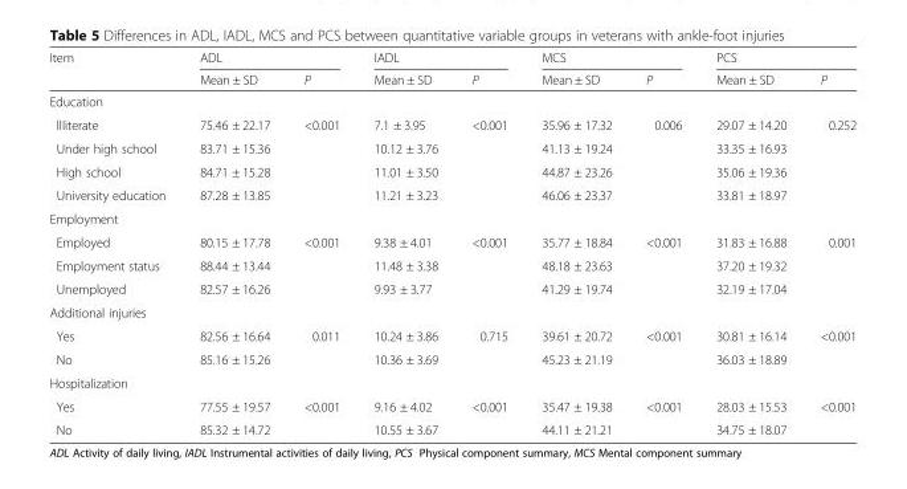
<table><thead><tr><td rowspan="2">Item</td><td colspan="2">ADL</td><td colspan="2">IADL</td><td colspan="2">MCS</td><td colspan="2">PCS</td></tr><tr><td>Mean ± SD</td><td>P</td><td>Mean ± SD</td><td>P</td><td>Mean ± SD</td><td>P</td><td>Mean ± SD</td><td>P</td></tr></thead><tbody><tr><td colspan="9">Education</td></tr><tr><td>Illiterate</td><td>75.46 ± 22.17</td><td rowspan="4">&lt;0.001</td><td>7.1 ± 3.95</td><td rowspan="4">&lt;0.001</td><td>35.96 ± 17.32</td><td rowspan="4">0.006</td><td>29.07 ± 14.20</td><td rowspan="4">0.252</td></tr><tr><td>Under high school</td><td>83.71 ± 15.36</td><td>10.12 ± 3.76</td><td>41.13 ± 19.24</td><td>33.35 ± 16.93</td></tr><tr><td>High school</td><td>84.71 ± 15.28</td><td>11.01 ± 3.50</td><td>44.87 ± 23.26</td><td>35.06 ± 19.36</td></tr><tr><td>University education</td><td>87.28 ± 13.85</td><td>11.21 ± 3.23</td><td>46.06 ± 23.37</td><td>33.81 ± 18.97</td></tr><tr><td colspan="9">Employment</td></tr><tr><td>Employed</td><td>80.15 ± 17.78</td><td rowspan="3">&lt;0.001</td><td>9.38 ± 4.01</td><td rowspan="3">&lt;0.001</td><td>35.77 ± 18.84</td><td rowspan="3">&lt;0.001</td><td>31.83 ± 16.88</td><td rowspan="3">0.001</td></tr><tr><td>Employment status</td><td>88.44 ± 13.44</td><td>11.48 ± 3.38</td><td>48.18 ± 23.63</td><td>37.20 ± 19.32</td></tr><tr><td>Unemployed</td><td>82.57 ± 16.26</td><td>9.93 ± 3.77</td><td>41.29 ± 19.74</td><td>32.19 ± 17.04</td></tr><tr><td colspan="9">Additional injuries</td></tr><tr><td>Yes</td><td>82.56 ± 16.64</td><td rowspan="2">0.011</td><td>10.24 ± 3.86</td><td rowspan="2">0.715</td><td>39.61 ± 20.72</td><td rowspan="2">&lt;0.001</td><td>30.81 ± 16.14</td><td rowspan="2">&lt;0.001</td></tr><tr><td>No</td><td>85.16 ± 15.26</td><td>10.36 ± 3.69</td><td>45.23 ± 21.19</td><td>36.03 ± 18.89</td></tr><tr><td colspan="9">Hospitalization</td></tr><tr><td>Yes</td><td>77.55 ± 19.57</td><td rowspan="2">&lt;0.001</td><td>9.16 ± 4.02</td><td rowspan="2">&lt;0.001</td><td>35.47 ± 19.38</td><td rowspan="2">&lt;0.001</td><td>28.03 ± 15.53</td><td rowspan="2">&lt;0.001</td></tr><tr><td>No</td><td>85.32 ± 14.72</td><td>10.55 ± 3.67</td><td>44.11 ± 21.21</td><td>34.75 ± 18.07</td></tr></tbody></table>